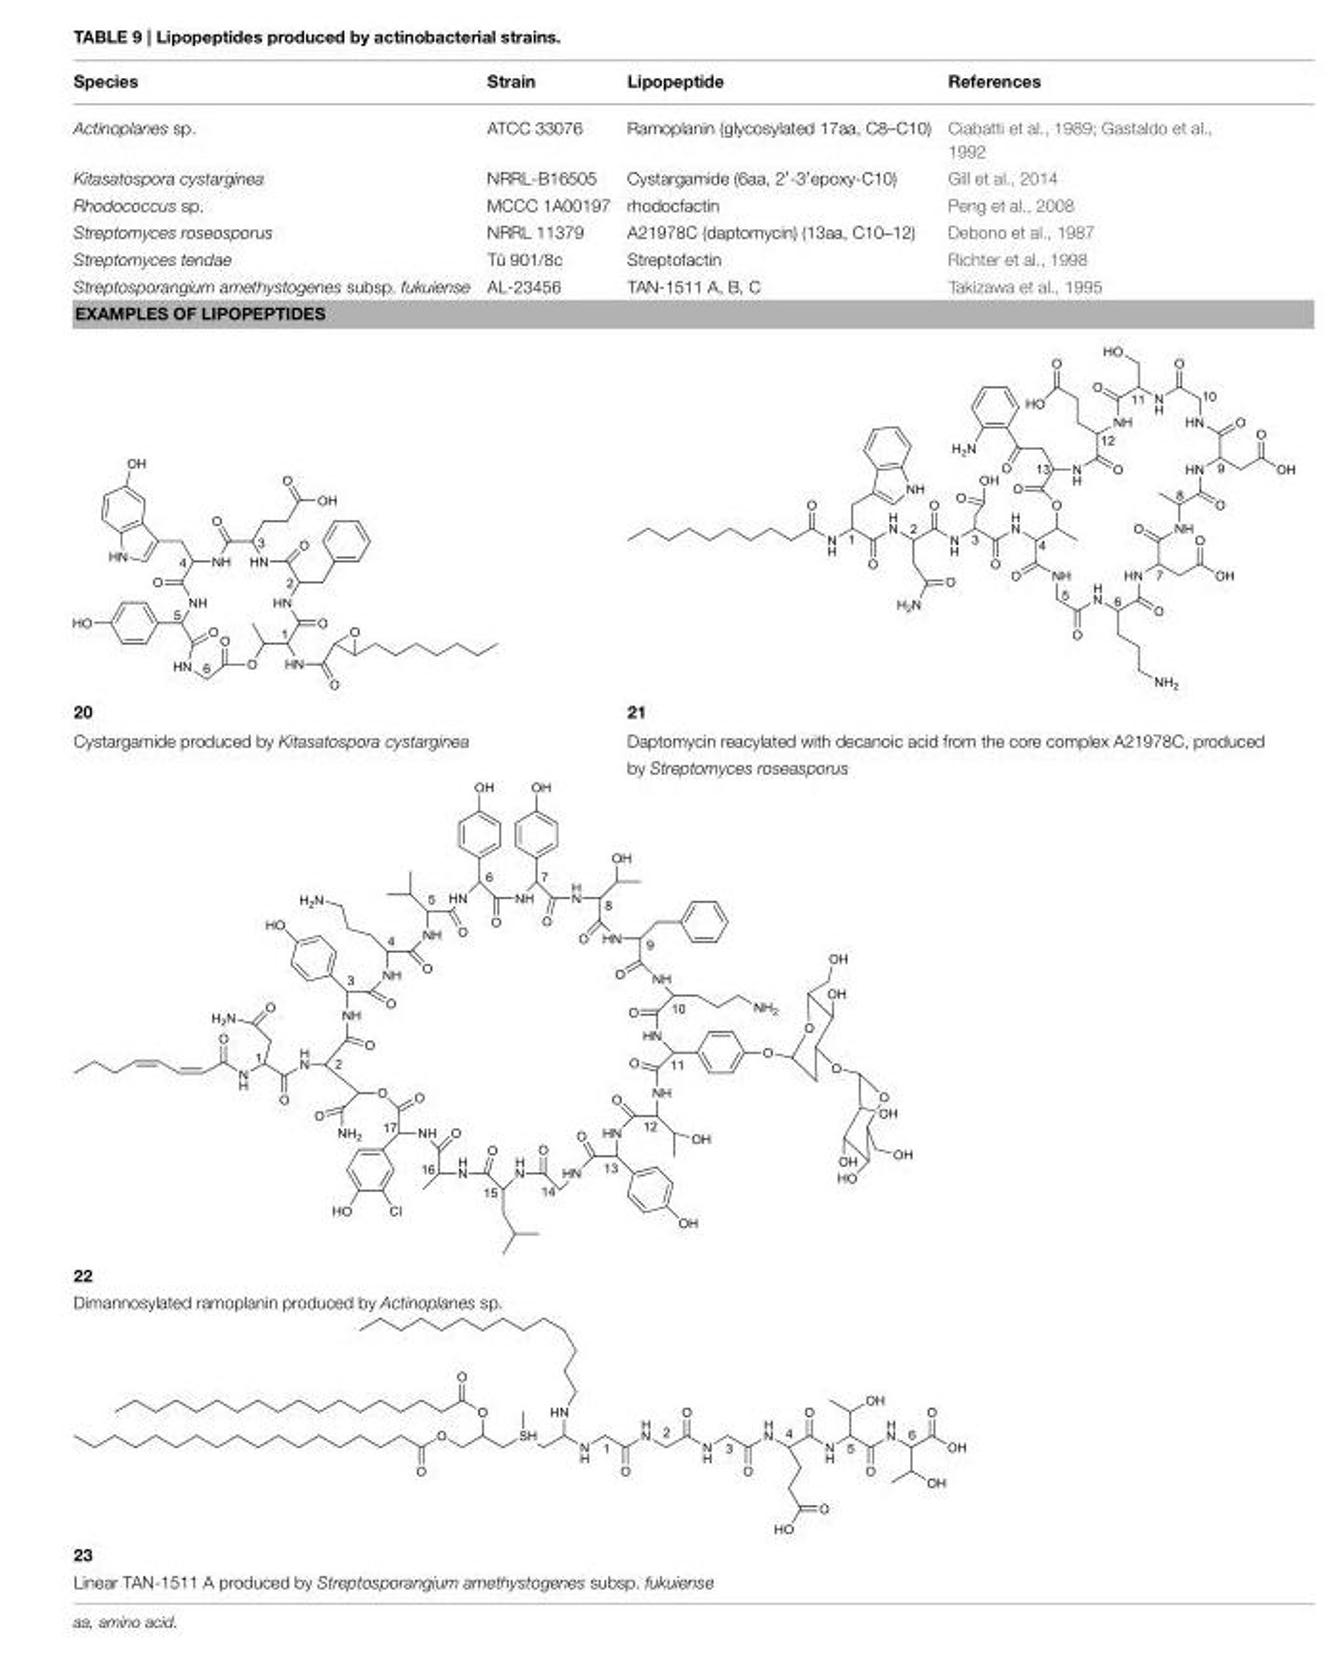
<table><thead><tr><td>Species</td><td>Strain</td><td>Lipopeptide</td><td>References</td></tr></thead><tbody><tr><td>Actinoplanes sp.</td><td>ATCC 33076</td><td>Ramoplanin (glycosylated 17aa, C8–C10)</td><td>Ciabatti et al., 1989; Gastaldo et al., 1992</td></tr><tr><td>Kitasatospora cystarginea</td><td>NRRL-B16505</td><td>Cystargamide (6aa, 2′-3′epoxy-C10)</td><td>Gill et al., 2014</td></tr><tr><td>Rhodococcus sp.</td><td>MCCC 1A00197</td><td>rhodocfactin</td><td>Peng et al., 2008</td></tr><tr><td>Streptomyces roseosporus</td><td>NRRL 11379</td><td>A21978C (daptomycin) (13aa, C10–12)</td><td>Debono et al., 1987</td></tr><tr><td>Streptomyces tendae</td><td>Tü 901/8c</td><td>Streptofactin</td><td>Richter et al., 1998</td></tr><tr><td>Streptosporangium amethystogenes subsp. fukuiense</td><td>AL-23456</td><td>TAN-1511 A, B, C</td><td>Takizawa et al., 1995</td></tr><tr><td colspan="4">EXAMPLES OF LIPOPEPTIDES</td></tr><tr><td colspan="2">20</td><td colspan="2">21</td></tr><tr><td colspan="2">Cystargamide produced by Kitasatospora cystarginea</td><td colspan="2">Daptomycin reacylated with decanoic acid from the core complex A21978C, produced by Streptomyces roseasporus</td></tr><tr><td colspan="4">22</td></tr><tr><td colspan="4">Dimannosylated ramoplanin produced by Actinoplanes sp.</td></tr><tr><td colspan="4">23</td></tr><tr><td colspan="4">Linear TAN-1511 A produced by Streptosporangium amethystogenes subsp. fukuiense</td></tr></tbody></table>